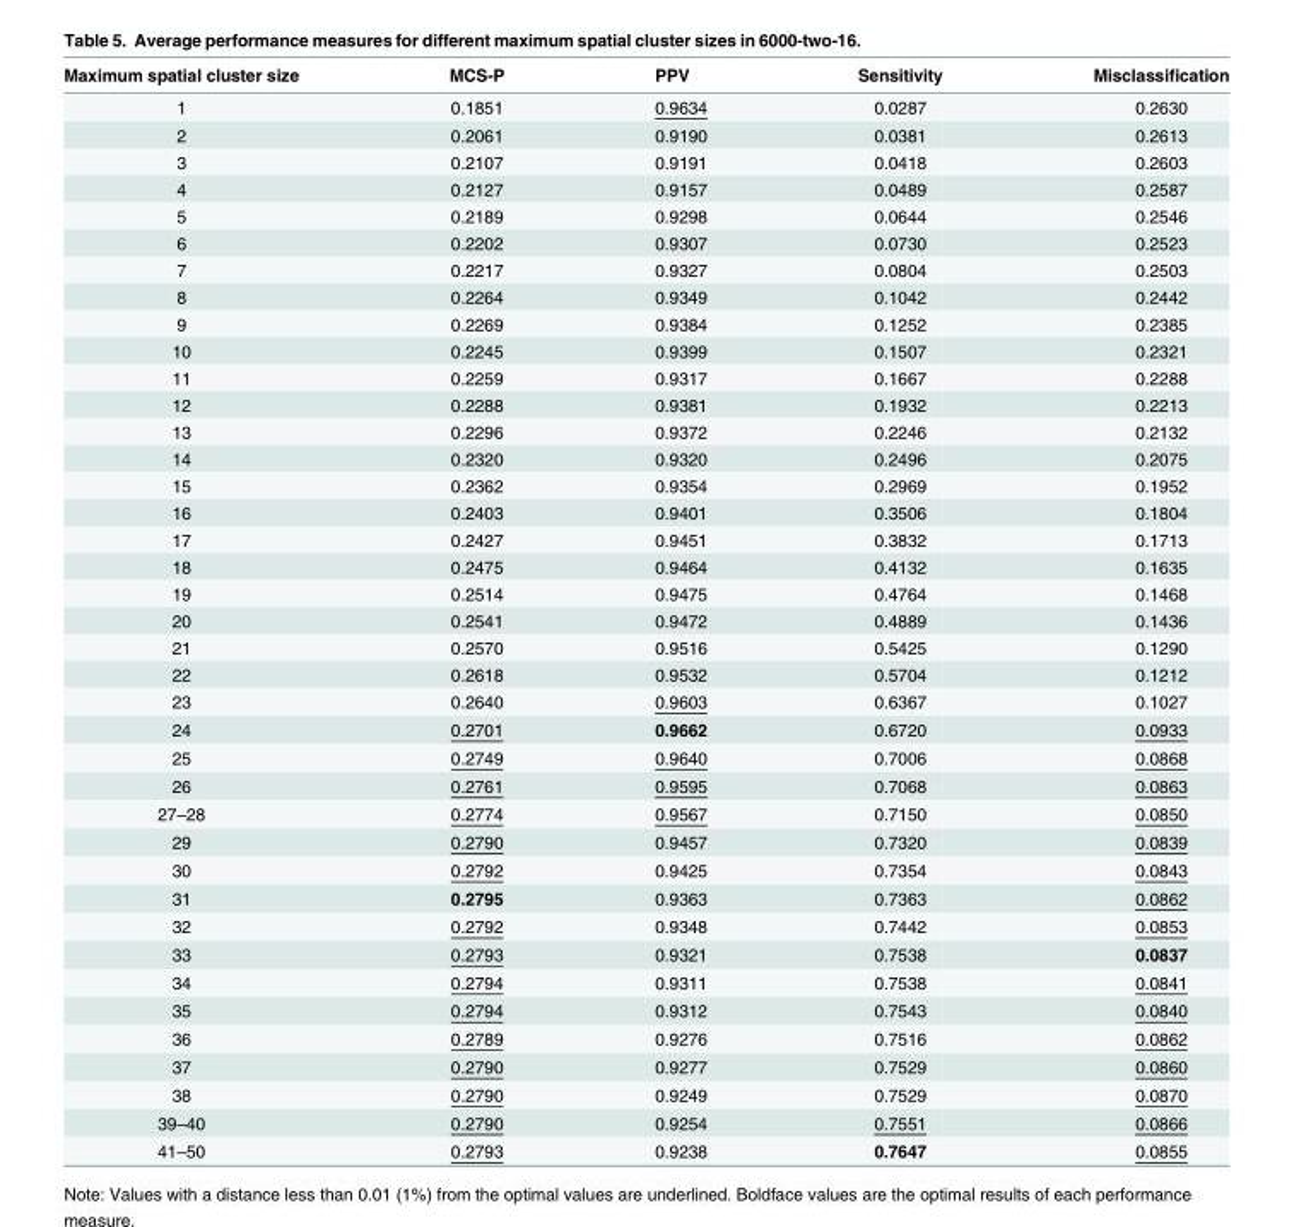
<table><thead><tr><td>Maximum spatial cluster size</td><td>MCS-P</td><td>PPV</td><td>Sensitivity</td><td>Misclassification</td></tr></thead><tbody><tr><td>1</td><td>0.1851</td><td>0.9634</td><td>0.0287</td><td>0.2630</td></tr><tr><td>2</td><td>0.2061</td><td>0.9190</td><td>0.0381</td><td>0.2613</td></tr><tr><td>3</td><td>0.2107</td><td>0.9191</td><td>0.0418</td><td>0.2603</td></tr><tr><td>4</td><td>0.2127</td><td>0.9157</td><td>0.0489</td><td>0.2587</td></tr><tr><td>5</td><td>0.2189</td><td>0.9298</td><td>0.0644</td><td>0.2546</td></tr><tr><td>6</td><td>0.2202</td><td>0.9307</td><td>0.0730</td><td>0.2523</td></tr><tr><td>7</td><td>0.2217</td><td>0.9327</td><td>0.0804</td><td>0.2503</td></tr><tr><td>8</td><td>0.2264</td><td>0.9349</td><td>0.1042</td><td>0.2442</td></tr><tr><td>9</td><td>0.2269</td><td>0.9384</td><td>0.1252</td><td>0.2385</td></tr><tr><td>10</td><td>0.2245</td><td>0.9399</td><td>0.1507</td><td>0.2321</td></tr><tr><td>11</td><td>0.2259</td><td>0.9317</td><td>0.1667</td><td>0.2288</td></tr><tr><td>12</td><td>0.2288</td><td>0.9381</td><td>0.1932</td><td>0.2213</td></tr><tr><td>13</td><td>0.2296</td><td>0.9372</td><td>0.2246</td><td>0.2132</td></tr><tr><td>14</td><td>0.2320</td><td>0.9320</td><td>0.2496</td><td>0.2075</td></tr><tr><td>15</td><td>0.2362</td><td>0.9354</td><td>0.2969</td><td>0.1952</td></tr><tr><td>16</td><td>0.2403</td><td>0.9401</td><td>0.3506</td><td>0.1804</td></tr><tr><td>17</td><td>0.2427</td><td>0.9451</td><td>0.3832</td><td>0.1713</td></tr><tr><td>18</td><td>0.2475</td><td>0.9464</td><td>0.4132</td><td>0.1635</td></tr><tr><td>19</td><td>0.2514</td><td>0.9475</td><td>0.4764</td><td>0.1468</td></tr><tr><td>20</td><td>0.2541</td><td>0.9472</td><td>0.4889</td><td>0.1436</td></tr><tr><td>21</td><td>0.2570</td><td>0.9516</td><td>0.5425</td><td>0.1290</td></tr><tr><td>22</td><td>0.2618</td><td>0.9532</td><td>0.5704</td><td>0.1212</td></tr><tr><td>23</td><td>0.2640</td><td>0.9603</td><td>0.6367</td><td>0.1027</td></tr><tr><td>24</td><td>0.2701</td><td>0.9662</td><td>0.6720</td><td>0.0933</td></tr><tr><td>25</td><td>0.2749</td><td>0.9640</td><td>0.7006</td><td>0.0868</td></tr><tr><td>26</td><td>0.2761</td><td>0.9595</td><td>0.7068</td><td>0.0863</td></tr><tr><td>27–28</td><td>0.2774</td><td>0.9567</td><td>0.7150</td><td>0.0850</td></tr><tr><td>29</td><td>0.2790</td><td>0.9457</td><td>0.7320</td><td>0.0839</td></tr><tr><td>30</td><td>0.2792</td><td>0.9425</td><td>0.7354</td><td>0.0843</td></tr><tr><td>31</td><td>0.2795</td><td>0.9363</td><td>0.7363</td><td>0.0862</td></tr><tr><td>32</td><td>0.2792</td><td>0.9348</td><td>0.7442</td><td>0.0853</td></tr><tr><td>33</td><td>0.2793</td><td>0.9321</td><td>0.7538</td><td>0.0837</td></tr><tr><td>34</td><td>0.2794</td><td>0.9311</td><td>0.7538</td><td>0.0841</td></tr><tr><td>35</td><td>0.2794</td><td>0.9312</td><td>0.7543</td><td>0.0840</td></tr><tr><td>36</td><td>0.2789</td><td>0.9276</td><td>0.7516</td><td>0.0862</td></tr><tr><td>37</td><td>0.2790</td><td>0.9277</td><td>0.7529</td><td>0.0860</td></tr><tr><td>38</td><td>0.2790</td><td>0.9249</td><td>0.7529</td><td>0.0870</td></tr><tr><td>39–40</td><td>0.2790</td><td>0.9254</td><td>0.7551</td><td>0.0866</td></tr><tr><td>41–50</td><td>0.2793</td><td>0.9238</td><td>0.7647</td><td>0.0855</td></tr></tbody></table>